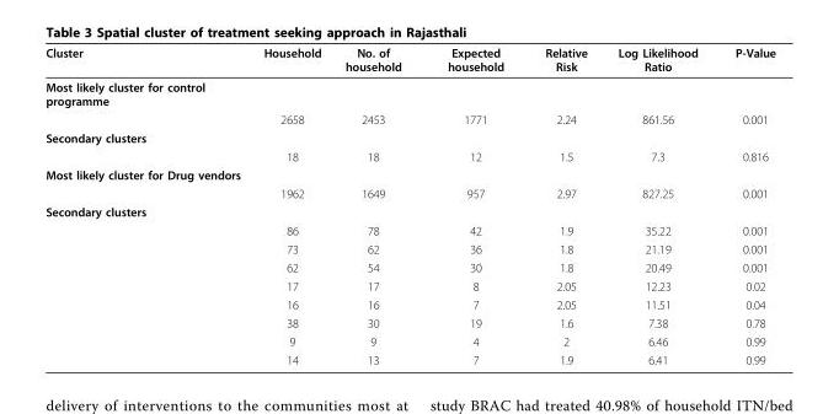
<table><thead><tr><td>Cluster</td><td>Household</td><td>No. of household</td><td>Expected household</td><td>Relative Risk</td><td>Log Likelihood Ratio</td><td>P-Value</td></tr></thead><tbody><tr><td colspan="7">Most likely cluster for control programme</td></tr><tr><td></td><td>2658</td><td>2453</td><td>1771</td><td>2.24</td><td>861.56</td><td>0.001</td></tr><tr><td colspan="7">Secondary clusters</td></tr><tr><td></td><td>18</td><td>18</td><td>12</td><td>1.5</td><td>7.3</td><td>0.816</td></tr><tr><td colspan="7">Most likely cluster for Drug vendors</td></tr><tr><td></td><td>1962</td><td>1649</td><td>957</td><td>2.97</td><td>827.25</td><td>0.001</td></tr><tr><td colspan="7">Secondary clusters</td></tr><tr><td></td><td>86</td><td>78</td><td>42</td><td>1.9</td><td>35.22</td><td>0.001</td></tr><tr><td></td><td>73</td><td>62</td><td>36</td><td>1.8</td><td>21.19</td><td>0.001</td></tr><tr><td></td><td>62</td><td>54</td><td>30</td><td>1.8</td><td>20.49</td><td>0.001</td></tr><tr><td></td><td>17</td><td>17</td><td>8</td><td>2.05</td><td>12.23</td><td>0.02</td></tr><tr><td></td><td>16</td><td>16</td><td>7</td><td>2.05</td><td>11.51</td><td>0.04</td></tr><tr><td></td><td>38</td><td>30</td><td>19</td><td>1.6</td><td>7.38</td><td>0.78</td></tr><tr><td></td><td>9</td><td>9</td><td>4</td><td>2</td><td>6.46</td><td>0.99</td></tr><tr><td></td><td>14</td><td>13</td><td>7</td><td>1.9</td><td>6.41</td><td>0.99</td></tr></tbody></table>